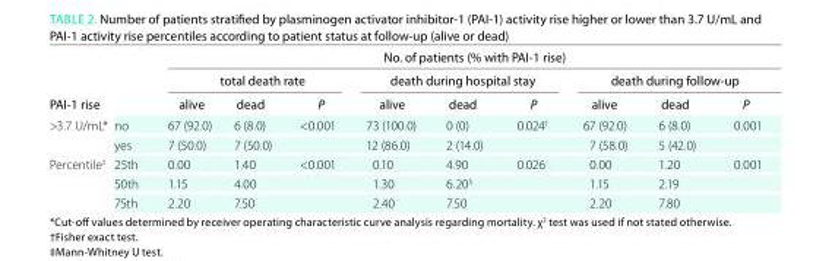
<table><thead><tr><td></td><td></td><td colspan="9">No. of patients (% with PaI-1 rise)</td></tr><tr><td rowspan="2" colspan="2">PaI-1 rise</td><td colspan="3">total death rate</td><td colspan="3">death during hospital stay</td><td colspan="3">death during follow-up</td></tr><tr><td>alive</td><td>dead</td><td>P</td><td>alive</td><td>dead</td><td>P</td><td>alive</td><td>dead</td><td>P</td></tr></thead><tbody><tr><td rowspan="2">&gt;3.7 U/mL*</td><td>no</td><td>67 (92.0)</td><td>6 (8.0)</td><td rowspan="2">&lt;0.001</td><td>73 (100.0)</td><td>0 (0)</td><td rowspan="2">0.024<sup>†</sup></td><td>67 (92.0)</td><td>6 (8.0)</td><td rowspan="2">0.001</td></tr><tr><td>yes</td><td>7 (50.0)</td><td>7 (50.0)</td><td>12 (86.0)</td><td>2 (14.0)</td><td>7 (58.0)</td><td>5 (42.0)</td></tr><tr><td rowspan="3">Percentile<sup>‡</sup></td><td>25th</td><td>0.00</td><td>1.40</td><td rowspan="3">&lt;0.001</td><td>0.10</td><td>4.90</td><td rowspan="3">0.026</td><td>0.00</td><td>1.20</td><td rowspan="3">0.001</td></tr><tr><td>50th</td><td>1.15</td><td>4.00</td><td>1.30</td><td>6.20<sup>§</sup></td><td>1.15</td><td>2.19</td></tr><tr><td>75th</td><td>2.20</td><td>7.50</td><td>2.40</td><td>7.50</td><td>2.20</td><td>7.80</td></tr></tbody></table>